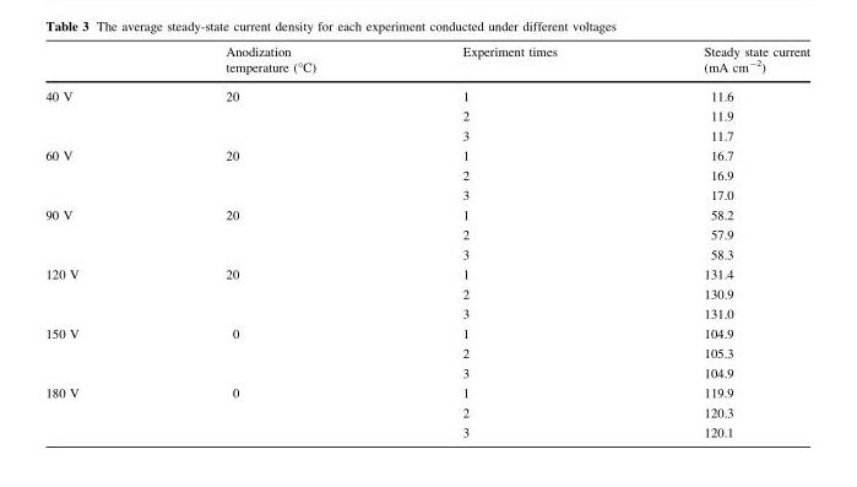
<table><thead><tr><td></td><td>Anodization temperature (°C)</td><td>Experiment times</td><td>Steady state current (mA cm<sup>-2</sup>)</td></tr></thead><tbody><tr><td rowspan="3">40 V</td><td rowspan="3">20</td><td>1</td><td>11.6</td></tr><tr><td>2</td><td>11.9</td></tr><tr><td>3</td><td>11.7</td></tr><tr><td rowspan="3">60 V</td><td rowspan="3">20</td><td>1</td><td>16.7</td></tr><tr><td>2</td><td>16.9</td></tr><tr><td>3</td><td>17.0</td></tr><tr><td rowspan="3">90 V</td><td rowspan="3">20</td><td>1</td><td>58.2</td></tr><tr><td>2</td><td>57.9</td></tr><tr><td>3</td><td>58.3</td></tr><tr><td rowspan="3">120 V</td><td rowspan="3">20</td><td>1</td><td>131.4</td></tr><tr><td>2</td><td>130.9</td></tr><tr><td>3</td><td>131.0</td></tr><tr><td rowspan="3">150 V</td><td rowspan="3">0</td><td>1</td><td>104.9</td></tr><tr><td>2</td><td>105.3</td></tr><tr><td>3</td><td>104.9</td></tr><tr><td rowspan="3">180 V</td><td rowspan="3">0</td><td>1</td><td>119.9</td></tr><tr><td>2</td><td>120.3</td></tr><tr><td>3</td><td>120.1</td></tr></tbody></table>